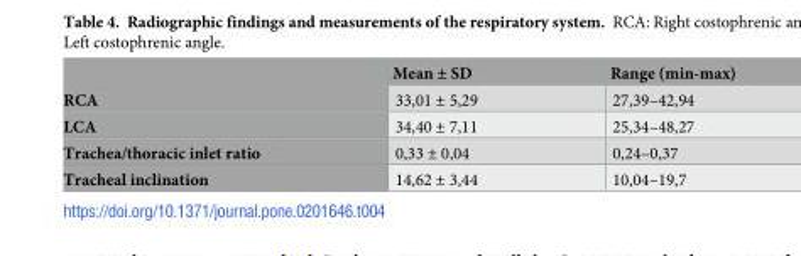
<table><thead><tr><td></td><td>Mean ± SD</td><td>Range (min-max)</td></tr></thead><tbody><tr><td>RCA</td><td>33,01 ± 5,29</td><td>27,39–42,94</td></tr><tr><td>LCA</td><td>34,40 ± 7,11</td><td>25,34–48,27</td></tr><tr><td>Trachea/thoracic inlet ratio</td><td>0,33 ± 0,04</td><td>0,24–0,37</td></tr><tr><td>Tracheal inclination</td><td>14,62 ± 3,44</td><td>10,04–19,7</td></tr></tbody></table>